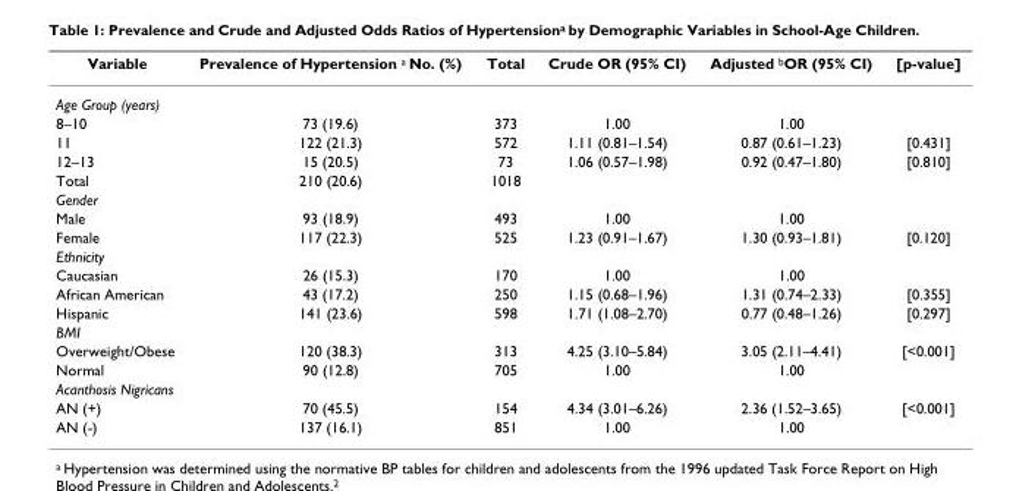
<table><thead><tr><td>Variable</td><td>Prevalence of Hypertension <sup>a</sup> No. (%)</td><td>Total</td><td>Crude OR (95% CI)</td><td>Adjusted <sup>b</sup>OR (95% CI)</td><td>[p-value]</td></tr></thead><tbody><tr><td colspan="6">Age Group (years)</td></tr><tr><td>8–10</td><td>73 (19.6)</td><td>373</td><td>1.00</td><td>1.00</td><td></td></tr><tr><td>11</td><td>122 (21.3)</td><td>572</td><td>1.11 (0.81–1.54)</td><td>0.87 (0.61–1.23)</td><td>[0.431]</td></tr><tr><td>12–13</td><td>15 (20.5)</td><td>73</td><td>1.06 (0.57–1.98)</td><td>0.92 (0.47–1.80)</td><td>[0.810]</td></tr><tr><td>Total</td><td>210 (20.6)</td><td>1018</td><td></td><td></td><td></td></tr><tr><td colspan="6">Gender</td></tr><tr><td>Male</td><td>93 (18.9)</td><td>493</td><td>1.00</td><td>1.00</td><td></td></tr><tr><td>Female</td><td>117 (22.3)</td><td>525</td><td>1.23 (0.91–1.67)</td><td>1.30 (0.93–1.81)</td><td>[0.120]</td></tr><tr><td colspan="6">Ethnicity</td></tr><tr><td>Caucasian</td><td>26 (15.3)</td><td>170</td><td>1.00</td><td>1.00</td><td></td></tr><tr><td>African American</td><td>43 (17.2)</td><td>250</td><td>1.15 (0.68–1.96)</td><td>1.31 (0.74–2.33)</td><td>[0.355]</td></tr><tr><td>Hispanic</td><td>141 (23.6)</td><td>598</td><td>1.71 (1.08–2.70)</td><td>0.77 (0.48–1.26)</td><td>[0.297]</td></tr><tr><td colspan="6">BMI</td></tr><tr><td>Overweight/Obese</td><td>120 (38.3)</td><td>313</td><td>4.25 (3.10–5.84)</td><td>3.05 (2.11–4.41)</td><td>[&lt;0.001]</td></tr><tr><td>Normal</td><td>90 (12.8)</td><td>705</td><td>1.00</td><td>1.00</td><td></td></tr><tr><td colspan="6">Acanthosis Nigricans</td></tr><tr><td>AN (+)</td><td>70 (45.5)</td><td>154</td><td>4.34 (3.01–6.26)</td><td>2.36 (1.52–3.65)</td><td>[&lt;0.001]</td></tr><tr><td>AN (-)</td><td>137 (16.1)</td><td>851</td><td>1.00</td><td>1.00</td><td></td></tr></tbody></table>